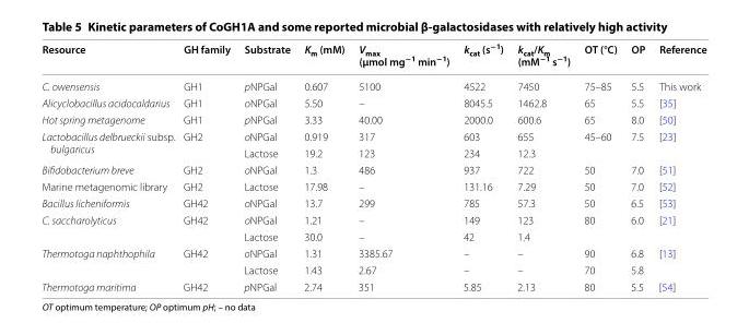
<table><thead><tr><td>Resource</td><td>GH family</td><td>Substrate</td><td>K<sub>m</sub> (mM)</td><td>V<sub>max</sub> (μmol mg<sup>−1</sup> min<sup>−1</sup>)</td><td>k<sub>cat</sub> (s<sup>−1</sup>)</td><td>k<sub>cat</sub>/K<sub>m</sub> (mM<sup>−1</sup> s<sup>−1</sup>)</td><td>OT (°C)</td><td>OP</td><td>Reference</td></tr></thead><tbody><tr><td>C. owensensis</td><td>GH1</td><td>pNPGal</td><td>0.607</td><td>5100</td><td>4522</td><td>7450</td><td>75–85</td><td>5.5</td><td>This work</td></tr><tr><td>Alicyclobacillus acidocaldarius</td><td>GH1</td><td>oNPGal</td><td>5.50</td><td>–</td><td>8045.5</td><td>1462.8</td><td>65</td><td>5.5</td><td>[35]</td></tr><tr><td>Hot spring metagenome</td><td>GH1</td><td>pNPGal</td><td>3.33</td><td>40.00</td><td>2000.0</td><td>600.6</td><td>65</td><td>8.0</td><td>[50]</td></tr><tr><td rowspan="2">Lactobacillus delbrueckii subsp. bulgaricus</td><td rowspan="2">GH2</td><td>oNPGal</td><td>0.919</td><td>317</td><td>603</td><td>655</td><td rowspan="2">45–60</td><td rowspan="2">7.5</td><td rowspan="2">[23]</td></tr><tr><td>Lactose</td><td>19.2</td><td>123</td><td>234</td><td>12.3</td></tr><tr><td>Bifidobacterium breve</td><td>GH2</td><td>oNPGal</td><td>1.3</td><td>486</td><td>937</td><td>722</td><td>50</td><td>7.0</td><td>[51]</td></tr><tr><td>Marine metagenomic library</td><td>GH2</td><td>Lactose</td><td>17.98</td><td>–</td><td>131.16</td><td>7.29</td><td>50</td><td>7.0</td><td>[52]</td></tr><tr><td>Bacillus licheniformis</td><td>GH42</td><td>oNPGal</td><td>13.7</td><td>299</td><td>785</td><td>57.3</td><td>50</td><td>6.5</td><td>[53]</td></tr><tr><td rowspan="2">C. saccharolyticus</td><td rowspan="2">GH42</td><td>oNPGal</td><td>1.21</td><td>–</td><td>149</td><td>123</td><td rowspan="2">80</td><td rowspan="2">6.0</td><td rowspan="2">[21]</td></tr><tr><td>Lactose</td><td>30.0</td><td>–</td><td>42</td><td>1.4</td></tr><tr><td rowspan="2">Thermotoga naphthophila</td><td rowspan="2">GH42</td><td>oNPGal</td><td>1.31</td><td>3385.67</td><td>–</td><td>–</td><td>90</td><td>6.8</td><td rowspan="2">[13]</td></tr><tr><td>Lactose</td><td>1.43</td><td>2.67</td><td>–</td><td>–</td><td>70</td><td>5.8</td></tr><tr><td>Thermotoga maritima</td><td>GH42</td><td>pNPGal</td><td>2.74</td><td>351</td><td>5.85</td><td>2.13</td><td>80</td><td>5.5</td><td>[54]</td></tr></tbody></table>